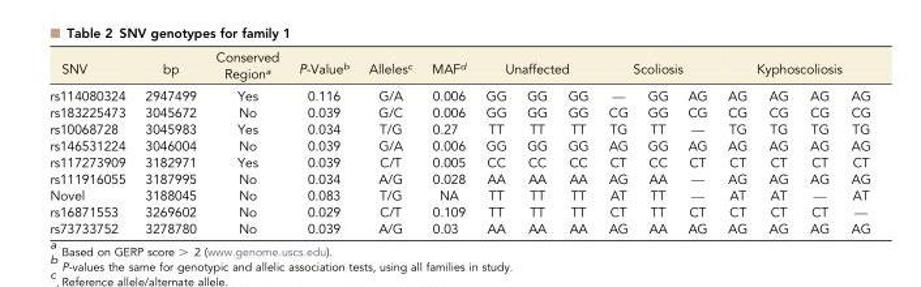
<table><thead><tr><td rowspan="2">SNV rs114080324</td><td rowspan="2">bp 2947499</td><td rowspan="2">Conserved Region<sup>a</sup> Yes</td><td rowspan="2">P-Value<sup>b</sup> 0.116</td><td rowspan="2">Alleles<sup>c</sup> G/A</td><td rowspan="2">MAF<sup>d</sup> 0.006</td><td colspan="3">Unaffected</td><td colspan="3">Scoliosis</td><td colspan="4">Kyphoscoliosis</td></tr><tr><td>GG</td><td>GG</td><td>GG</td><td>—</td><td>GG</td><td>AG</td><td>AG</td><td>AG</td><td>AG</td><td>AG</td></tr></thead><tbody><tr><td>rs183225473</td><td>3045672</td><td>No</td><td>0.039</td><td>G/C</td><td>0.006</td><td>GG</td><td>GG</td><td>GG</td><td>CG</td><td>GG</td><td>CG</td><td>CG</td><td>CG</td><td>CG</td><td>CG</td></tr><tr><td>rs10068728</td><td>3045983</td><td>Yes</td><td>0.034</td><td>T/G</td><td>0.27</td><td>TT</td><td>TT</td><td>TT</td><td>TG</td><td>TT</td><td>—</td><td>TG</td><td>TG</td><td>TG</td><td>TG</td></tr><tr><td>rs146531224</td><td>3046004</td><td>No</td><td>0.039</td><td>G/A</td><td>0.006</td><td>GG</td><td>GG</td><td>GG</td><td>AG</td><td>GG</td><td>AG</td><td>AG</td><td>AG</td><td>AG</td><td>AG</td></tr><tr><td>rs117273909</td><td>3182971</td><td>Yes</td><td>0.039</td><td>C/T</td><td>0.005</td><td>CC</td><td>CC</td><td>CC</td><td>CT</td><td>CC</td><td>CT</td><td>CT</td><td>CT</td><td>CT</td><td>CT</td></tr><tr><td>rs111916055</td><td>3187995</td><td>No</td><td>0.034</td><td>A/G</td><td>0.028</td><td>AA</td><td>AA</td><td>AA</td><td>AG</td><td>AA</td><td>—</td><td>AG</td><td>AG</td><td>AG</td><td>AG</td></tr><tr><td>Novel</td><td>3188045</td><td>No</td><td>0.083</td><td>T/G</td><td>NA</td><td>TT</td><td>TT</td><td>TT</td><td>AT</td><td>TT</td><td>—</td><td>AT</td><td>AT</td><td>—</td><td>AT</td></tr><tr><td>rs16871553</td><td>3269602</td><td>No</td><td>0.029</td><td>C/T</td><td>0.109</td><td>TT</td><td>TT</td><td>TT</td><td>CT</td><td>TT</td><td>CT</td><td>CT</td><td>CT</td><td>CT</td><td>—</td></tr><tr><td>rs73733752</td><td>3278780</td><td>No</td><td>0.039</td><td>A/G</td><td>0.03</td><td>AA</td><td>AA</td><td>AA</td><td>AG</td><td>AA</td><td>AG</td><td>AG</td><td>AG</td><td>AG</td><td>AG</td></tr></tbody></table>